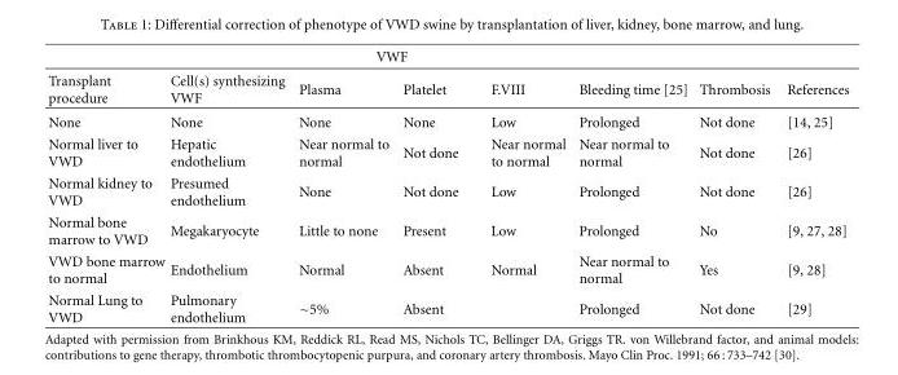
<table><thead><tr><td rowspan="2">Transplant procedure</td><td rowspan="2">Cell(s) synthesizing VWF</td><td colspan="2">VWF</td><td rowspan="2">F.VIII</td><td rowspan="2">Bleeding time [25]</td><td rowspan="2">Thrombosis</td><td rowspan="2">References</td></tr><tr><td>Plasma</td><td>Platelet</td></tr></thead><tbody><tr><td>None</td><td>None</td><td>None</td><td>None</td><td>Low</td><td>Prolonged</td><td>Not done</td><td>[14, 25]</td></tr><tr><td>Normal liver to VWD</td><td>Hepatic endothelium</td><td>Near normal to normal</td><td>Not done</td><td>Near normal to normal</td><td>Near normal to normal</td><td>Not done</td><td>[26]</td></tr><tr><td>Normal kidney to VWD</td><td>Presumed endothelium</td><td>None</td><td>Not done</td><td>Low</td><td>Prolonged</td><td>Not done</td><td>[26]</td></tr><tr><td>Normal bone marrow to VWD</td><td>Megakaryocyte</td><td>Little to none</td><td>Present</td><td>Low</td><td>Prolonged</td><td>No</td><td>[9, 27, 28]</td></tr><tr><td>VWD bone marrow to normal</td><td>Endothelium</td><td>Normal</td><td>Absent</td><td>Normal</td><td>Near normal to normal</td><td>Yes</td><td>[9, 28]</td></tr><tr><td>Normal Lung to VWD</td><td>Pulmonary endothelium</td><td>∼5%</td><td>Absent</td><td></td><td>Prolonged</td><td>Not done</td><td>[29]</td></tr></tbody></table>